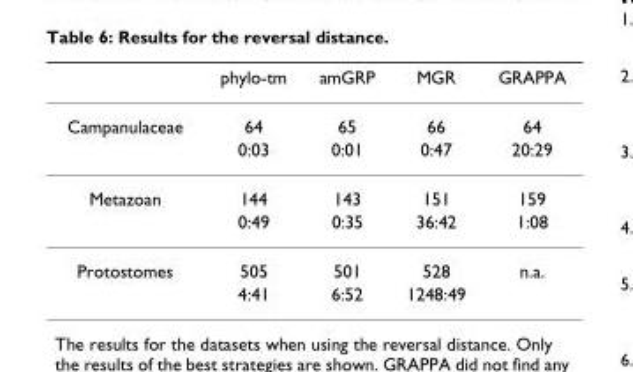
<table><thead><tr><td></td><td>phylo-tm</td><td>amGRP</td><td>MGR</td><td>GRAPPA</td></tr></thead><tbody><tr><td rowspan="2">Campanulaceae</td><td>64</td><td>65</td><td>66</td><td>64</td></tr><tr><td>0:03</td><td>0:01</td><td>0:47</td><td>20:29</td></tr><tr><td rowspan="2">Metazoan</td><td>144</td><td>143</td><td>151</td><td>159</td></tr><tr><td>0:49</td><td>0:35</td><td>36:42</td><td>1:08</td></tr><tr><td rowspan="2">Protostomes</td><td>505</td><td>501</td><td>528</td><td>n.a.</td></tr><tr><td>4:41</td><td>6:52</td><td>1248:49</td><td></td></tr></tbody></table>